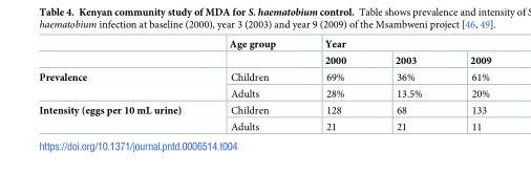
<table><thead><tr><td rowspan="2"></td><td rowspan="2">Age group</td><td colspan="3">Year</td></tr><tr><td>2000</td><td>2003</td><td>2009</td></tr></thead><tbody><tr><td rowspan="2">Prevalence</td><td>Children</td><td>69%</td><td>36%</td><td>61%</td></tr><tr><td>Adults</td><td>28%</td><td>13.5%</td><td>20%</td></tr><tr><td rowspan="2">Intensity (eggs per 10 mL urine)</td><td>Children</td><td>128</td><td>68</td><td>133</td></tr><tr><td>Adults</td><td>21</td><td>21</td><td>11</td></tr></tbody></table>